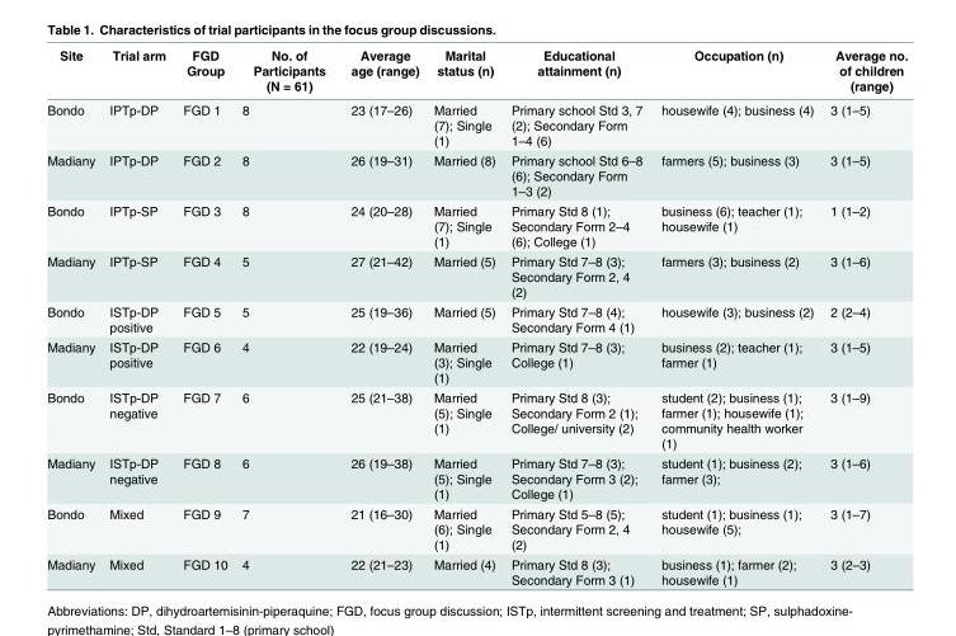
<table><thead><tr><td>Site</td><td>Trial arm</td><td>FGD Group</td><td>No. of Participants (N = 61)</td><td>Average age (range)</td><td>Marital status (n)</td><td>Educational attainment (n)</td><td>Occupation (n)</td><td>Average no. of children (range)</td></tr></thead><tbody><tr><td>Bondo</td><td>IPTp-DP</td><td>FGD 1</td><td>8</td><td>23 (17–26)</td><td>Married (7); Single (1)</td><td>Primary school Std 3, 7 (2); Secondary Form 1–4 (6)</td><td>housewife (4); business (4)</td><td>3 (1–5)</td></tr><tr><td>Madiany</td><td>IPTp-DP</td><td>FGD 2</td><td>8</td><td>26 (19–31)</td><td>Married (8)</td><td>Primary school Std 6–8 (6); Secondary Form 1–3 (2)</td><td>farmers (5); business (3)</td><td>3 (1–5)</td></tr><tr><td>Bondo</td><td>IPTp-SP</td><td>FGD 3</td><td>8</td><td>24 (20–28)</td><td>Married (7); Single (1)</td><td>Primary Std 8 (1); Secondary Form 2–4 (6); College (1)</td><td>business (6); teacher (1); housewife (1)</td><td>1 (1–2)</td></tr><tr><td>Madiany</td><td>IPTp-SP</td><td>FGD 4</td><td>5</td><td>27 (21–42)</td><td>Married (5)</td><td>Primary Std 7–8 (3); Secondary Form 2, 4 (2)</td><td>farmers (3); business (2)</td><td>3 (1–6)</td></tr><tr><td>Bondo</td><td>ISTp-DP positive</td><td>FGD 5</td><td>5</td><td>25 (19–36)</td><td>Married (5)</td><td>Primary Std 7–8 (4); Secondary Form 4 (1)</td><td>housewife (3); business (2)</td><td>2 (2–4)</td></tr><tr><td>Madiany</td><td>ISTp-DP positive</td><td>FGD 6</td><td>4</td><td>22 (19–24)</td><td>Married (3); Single (1)</td><td>Primary Std 7–8 (3); College (1)</td><td>business (2); teacher (1); farmer (1)</td><td>3 (1–5)</td></tr><tr><td>Bondo</td><td>ISTp-DP negative</td><td>FGD 7</td><td>6</td><td>25 (21–38)</td><td>Married (5); Single (1)</td><td>Primary Std 8 (3); Secondary Form 2 (1); College/ university (2)</td><td>student (2); business (1); farmer (1); housewife (1); community health worker (1)</td><td>3 (1–9)</td></tr><tr><td>Madiany</td><td>ISTp-DP negative</td><td>FGD 8</td><td>6</td><td>26 (19–38)</td><td>Married (5); Single (1)</td><td>Primary Std 7–8 (3); Secondary Form 3 (2); College (1)</td><td>student (1); business (2); farmer (3);</td><td>3 (1–6)</td></tr><tr><td>Bondo</td><td>Mixed</td><td>FGD 9</td><td>7</td><td>21 (16–30)</td><td>Married (6); Single (1)</td><td>Primary Std 5–8 (5); Secondary Form 2, 4 (2)</td><td>student (1); business (1); housewife (5);</td><td>3 (1–7)</td></tr><tr><td>Madiany</td><td>Mixed</td><td>FGD 10</td><td>4</td><td>22 (21–23)</td><td>Married (4)</td><td>Primary Std 8 (3); Secondary Form 3 (1)</td><td>business (1); farmer (2); housewife (1)</td><td>3 (2–3)</td></tr></tbody></table>